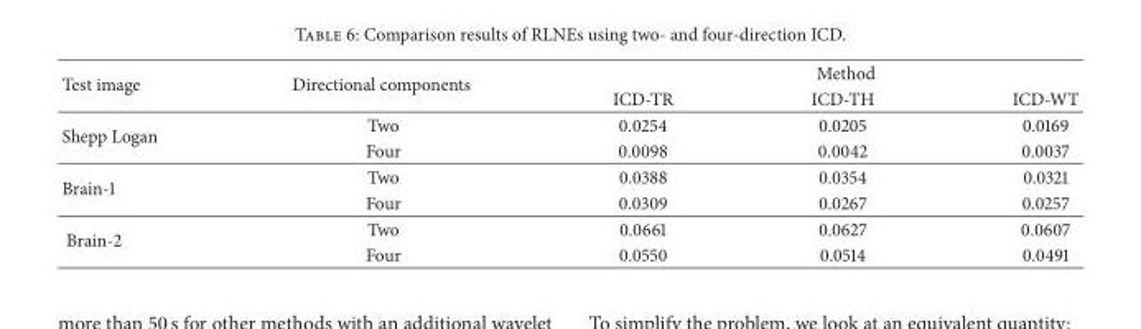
<table><thead><tr><td rowspan="2">Test image</td><td rowspan="2">Directional components</td><td colspan="3">Method</td></tr><tr><td>ICD-TR</td><td>ICD-TH</td><td>ICD-WT</td></tr></thead><tbody><tr><td rowspan="2">Shepp Logan</td><td>Two</td><td>0.0254</td><td>0.0205</td><td>0.0169</td></tr><tr><td>Four</td><td>0.0098</td><td>0.0042</td><td>0.0037</td></tr><tr><td rowspan="2">Brain-1</td><td>Two</td><td>0.0388</td><td>0.0354</td><td>0.0321</td></tr><tr><td>Four</td><td>0.0309</td><td>0.0267</td><td>0.0257</td></tr><tr><td rowspan="2">Brain-2</td><td>Two</td><td>0.0661</td><td>0.0627</td><td>0.0607</td></tr><tr><td>Four</td><td>0.0550</td><td>0.0514</td><td>0.0491</td></tr></tbody></table>